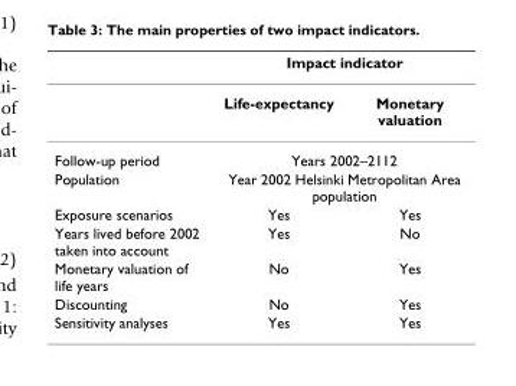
<table><thead><tr><td rowspan="2"></td><td colspan="2">Impact indicator</td></tr><tr><td>Life-expectancy</td><td>Monetary valuation</td></tr></thead><tbody><tr><td>Follow-up period</td><td colspan="2">Years 2002–2112</td></tr><tr><td>Population</td><td colspan="2">Year 2002 Helsinki Metropolitan Area population</td></tr><tr><td>Exposure scenarios</td><td>Yes</td><td>Yes</td></tr><tr><td>Years lived before 2002 taken into account</td><td>Yes</td><td>No</td></tr><tr><td>Monetary valuation of life years</td><td>No</td><td>Yes</td></tr><tr><td>Discounting</td><td>No</td><td>Yes</td></tr><tr><td>Sensitivity analyses</td><td>Yes</td><td>Yes</td></tr></tbody></table>